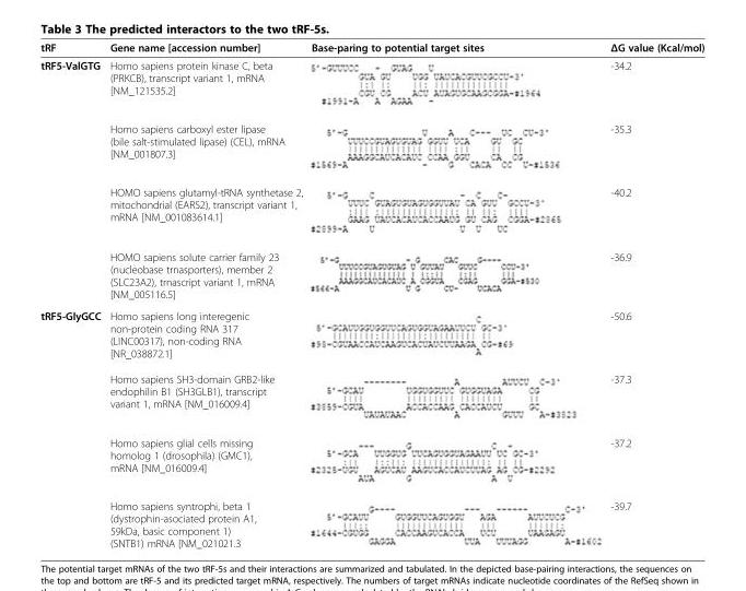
<table><thead><tr><td>tRF</td><td>Gene name [accession number]</td><td>Base-paring to potential target sites</td><td>ΔG value (Kcal/mol)</td></tr></thead><tbody><tr><td rowspan="4">tRF5-ValGTG</td><td>Homo sapiens protein kinase C, beta (PRKCB), transcript variant 1, mRNA [NM_121535.2]</td><td></td><td>-34.2</td></tr><tr><td>Homo sapiens carboxyl ester lipase (bile salt-stimulated lipase) (CEL), mRNA [NM_001807.3]</td><td></td><td>-35.3</td></tr><tr><td>HOMO sapiens glutamyl-tRNA synthetase 2, mitochondrial (EARS2), transcript variant 1, mRNA [NM_001083614.1]</td><td></td><td>-40.2</td></tr><tr><td>HOMO sapiens solute carrier family 23 (nucleobase trnasporters), member 2 (SLC23A2), trnascript variant 1, mRNA [NM_005116.5]</td><td></td><td>-36.9</td></tr><tr><td rowspan="4">tRF5-GlyGCC</td><td>Homo sapiens long interegenic non-protein coding RNA 317 (LINC00317), non-coding RNA [NR_038872.1]</td><td></td><td>-50.6</td></tr><tr><td>Homo sapiens SH3-domain GRB2-like endophilin B1 (SH3GLB1), transcript variant 1, mRNA [NM_016009.4]</td><td></td><td>-37.3</td></tr><tr><td>Homo sapiens glial cells missing homolog 1 (drosophila) (GMC1), mRNA [NM_016009.4]</td><td></td><td>-37.2</td></tr><tr><td>Homo sapiens syntrophi, beta 1 (dystrophin-asociated protein A1, 59kDa, basic component 1) (SNTB1) mRNA [NM_021021.3</td><td></td><td>-39.7</td></tr></tbody></table>